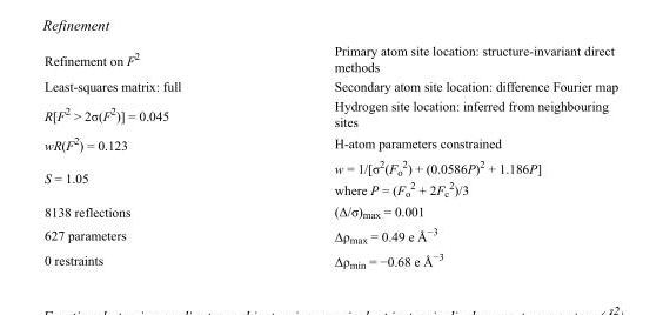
<table><tbody><tr><td>Refinement on F<sup>2</sup></td><td>Primary atom site location: structure-invariant direct methods</td></tr><tr><td>Least-squares matrix: full</td><td>Secondary atom site location: difference Fourier map</td></tr><tr><td>R[F<sup>2</sup> &gt; 2σ(F<sup>2</sup>)] = 0.045</td><td>Hydrogen site location: inferred from neighbouring sites</td></tr><tr><td>wR(F<sup>2</sup>) = 0.123</td><td>H-atom parameters constrained</td></tr><tr><td>S = 1.05</td><td>w = 1/[σ<sup>2</sup>(F<sub>o</sub> <sup>2</sup>) + (0.0586P)<sup>2</sup> + 1.186P] where P = (F<sub>o</sub> <sup>2</sup> + 2F<sub>c</sub> <sup>2</sup>)/3</td></tr><tr><td>8138 reflections</td><td>(Δ/σ)<sub>max</sub> = 0.001</td></tr><tr><td>627 parameters</td><td>Δρ<sub>max</sub> = 0.49 e Å<sup>−3</sup></td></tr><tr><td>0 restraints</td><td>Δρ<sub>min</sub> = −0.68 e Å<sup>−3</sup></td></tr></tbody></table>